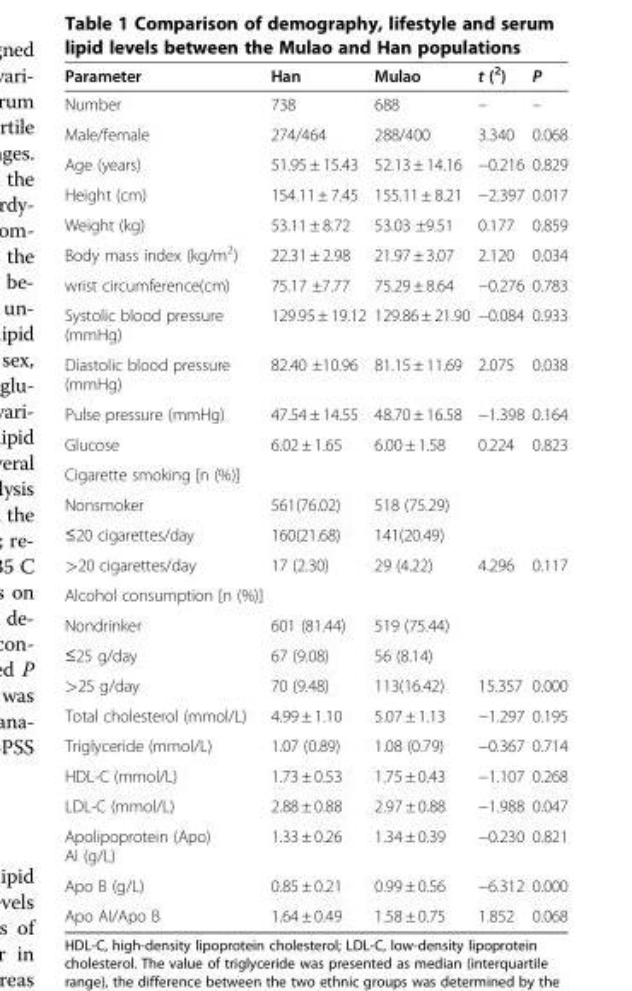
<table><thead><tr><td>Parameter</td><td>Han</td><td>Mulao</td><td>t (<sup>2</sup>)</td><td>P</td></tr></thead><tbody><tr><td>Number</td><td>738</td><td>688</td><td>–</td><td>–</td></tr><tr><td>Male/female</td><td>274/464</td><td>288/400</td><td>3.340</td><td>0.068</td></tr><tr><td>Age (years)</td><td>51.95 ± 15.43</td><td>52.13 ± 14.16</td><td>−0.216</td><td>0.829</td></tr><tr><td>Height (cm)</td><td>154.11 ± 7.45</td><td>155.11 ± 8.21</td><td>−2.397</td><td>0.017</td></tr><tr><td>Weight (kg)</td><td>53.11 ± 8.72</td><td>53.03 ±9.51</td><td>0.177</td><td>0.859</td></tr><tr><td>Body mass index (kg/m<sup>2</sup>)</td><td>22.31 ± 2.98</td><td>21.97 ± 3.07</td><td>2.120</td><td>0.034</td></tr><tr><td>wrist circumference(cm)</td><td>75.17 ±7.77</td><td>75.29 ± 8.64</td><td>−0.276</td><td>0.783</td></tr><tr><td>Systolic blood pressure (mmHg)</td><td>129.95 ± 19.12</td><td>129.86 ± 21.90</td><td>−0.084</td><td>0.933</td></tr><tr><td>Diastolic blood pressure (mmHg)</td><td>82.40 ±10.96</td><td>81.15 ± 11.69</td><td>2.075</td><td>0.038</td></tr><tr><td>Pulse pressure (mmHg)</td><td>47.54 ± 14.55</td><td>48.70 ± 16.58</td><td>−1.398</td><td>0.164</td></tr><tr><td>Glucose</td><td>6.02 ± 1.65</td><td>6.00 ± 1.58</td><td>0.224</td><td>0.823</td></tr><tr><td colspan="5">Cigarette smoking [n (%)]</td></tr><tr><td>Nonsmoker</td><td>561(76.02)</td><td>518 (75.29)</td><td></td><td></td></tr><tr><td>≤20 cigarettes/day</td><td>160(21.68)</td><td>141(20.49)</td><td></td><td></td></tr><tr><td>&gt;20 cigarettes/day</td><td>17 (2.30)</td><td>29 (4.22)</td><td>4.296</td><td>0.117</td></tr><tr><td colspan="5">Alcohol consumption [n (%)]</td></tr><tr><td>Nondrinker</td><td>601 (81.44)</td><td>519 (75.44)</td><td></td><td></td></tr><tr><td>≤25 g/day</td><td>67 (9.08)</td><td>56 (8.14)</td><td></td><td></td></tr><tr><td>&gt;25 g/day</td><td>70 (9.48)</td><td>113(16.42)</td><td>15.357</td><td>0.000</td></tr><tr><td>Total cholesterol (mmol/L)</td><td>4.99 ± 1.10</td><td>5.07 ± 1.13</td><td>−1.297</td><td>0.195</td></tr><tr><td>Triglyceride (mmol/L)</td><td>1.07 (0.89)</td><td>1.08 (0.79)</td><td>−0.367</td><td>0.714</td></tr><tr><td>HDL-C (mmol/L)</td><td>1.73 ± 0.53</td><td>1.75 ± 0.43</td><td>−1.107</td><td>0.268</td></tr><tr><td>LDL-C (mmol/L)</td><td>2.88 ± 0.88</td><td>2.97 ± 0.88</td><td>−1.988</td><td>0.047</td></tr><tr><td>Apolipoprotein (Apo) AI (g/L)</td><td>1.33 ± 0.26</td><td>1.34 ± 0.39</td><td>−0.230</td><td>0.821</td></tr><tr><td>Apo B (g/L)</td><td>0.85 ± 0.21</td><td>0.99 ± 0.56</td><td>−6.312</td><td>0.000</td></tr><tr><td>Apo AI/Apo B</td><td>1.64 ± 0.49</td><td>1.58 ± 0.75</td><td>1.852</td><td>0.068</td></tr></tbody></table>